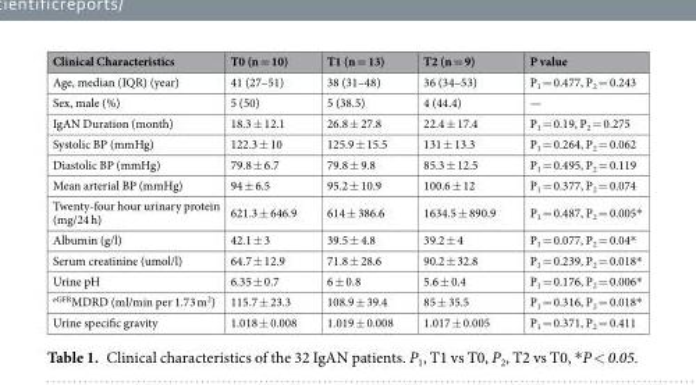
<table><thead><tr><td>Clinical Characteristics</td><td>T0 (n = 10)</td><td>T1 (n = 13)</td><td>T2 (n = 9)</td><td>P value</td></tr></thead><tbody><tr><td>Age, median (IQR) (year)</td><td>41 (27–51)</td><td>38 (31–48)</td><td>36 (34–53)</td><td>P<sub>1</sub> = 0.477, P<sub>2</sub> = 0.243</td></tr><tr><td>Sex, male (%)</td><td>5 (50)</td><td>5 (38.5)</td><td>4 (44.4)</td><td>—</td></tr><tr><td>IgAN Duration (month)</td><td>18.3 ± 12.1</td><td>26.8 ± 27.8</td><td>22.4 ± 17.4</td><td>P<sub>1</sub> = 0.19, P<sub>2</sub> = 0.275</td></tr><tr><td>Systolic BP (mmHg)</td><td>122.3 ± 10</td><td>125.9 ± 15.5</td><td>131 ± 13.3</td><td>P<sub>1</sub> = 0.264, P<sub>2</sub> = 0.062</td></tr><tr><td>Diastolic BP (mmHg)</td><td>79.8 ± 6.7</td><td>79.8 ± 9.8</td><td>85.3 ± 12.5</td><td>P<sub>1</sub> = 0.495, P<sub>2</sub> = 0.119</td></tr><tr><td>Mean arterial BP (mmHg)</td><td>94 ± 6.5</td><td>95.2 ± 10.9</td><td>100.6 ± 12</td><td>P<sub>1</sub> = 0.377, P<sub>2</sub> = 0.074</td></tr><tr><td>Twenty-four hour urinary protein (mg/24 h)</td><td>621.3 ± 646.9</td><td>614 ± 386.6</td><td>1634.5 ± 890.9</td><td>P<sub>1</sub> = 0.487, P<sub>2</sub> = 0.005*</td></tr><tr><td>Albumin (g/l)</td><td>42.1 ± 3</td><td>39.5 ± 4.8</td><td>39.2 ± 4</td><td>P<sub>1</sub> = 0.077, P<sub>2</sub> = 0.04*</td></tr><tr><td>Serum creatinine (umol/l)</td><td>64.7 ± 12.9</td><td>71.8 ± 28.6</td><td>90.2 ± 32.8</td><td>P<sub>1</sub> = 0.239, P<sub>2</sub> = 0.018*</td></tr><tr><td>Urine pH</td><td>6.35 ± 0.7</td><td>6 ± 0.8</td><td>5.6 ± 0.4</td><td>P<sub>1</sub> = 0.176, P<sub>2</sub> = 0.006*</td></tr><tr><td><sup>eGFR</sup>MDRD (ml/min per 1.73 m<sup>2</sup>)</td><td>115.7 ± 23.3</td><td>108.9 ± 39.4</td><td>85 ± 35.5</td><td>P<sub>1</sub> = 0.316, P<sub>2</sub> = 0.018*</td></tr><tr><td>Urine specific gravity</td><td>1.018 ± 0.008</td><td>1.019 ± 0.008</td><td>1.017 ± 0.005</td><td>P<sub>1</sub> = 0.371, P<sub>2</sub> = 0.411</td></tr></tbody></table>